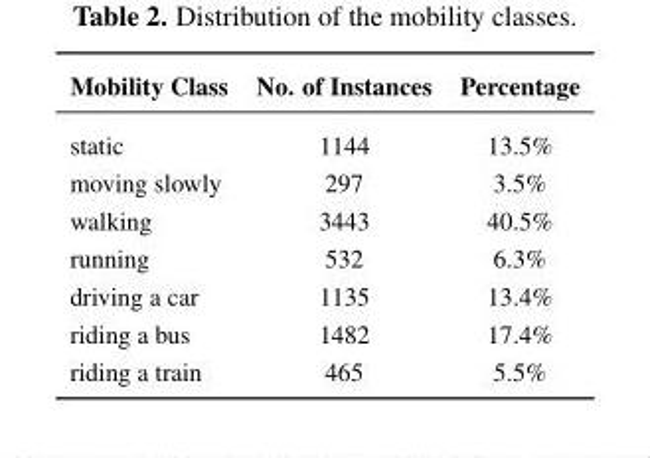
<table><thead><tr><td>Mobility Class</td><td>No. of Instances</td><td>Percentage</td></tr></thead><tbody><tr><td>static</td><td>1144</td><td>13.5%</td></tr><tr><td>moving slowly</td><td>297</td><td>3.5%</td></tr><tr><td>walking</td><td>3443</td><td>40.5%</td></tr><tr><td>running</td><td>532</td><td>6.3%</td></tr><tr><td>driving a car</td><td>1135</td><td>13.4%</td></tr><tr><td>riding a bus</td><td>1482</td><td>17.4%</td></tr><tr><td>riding a train</td><td>465</td><td>5.5%</td></tr></tbody></table>